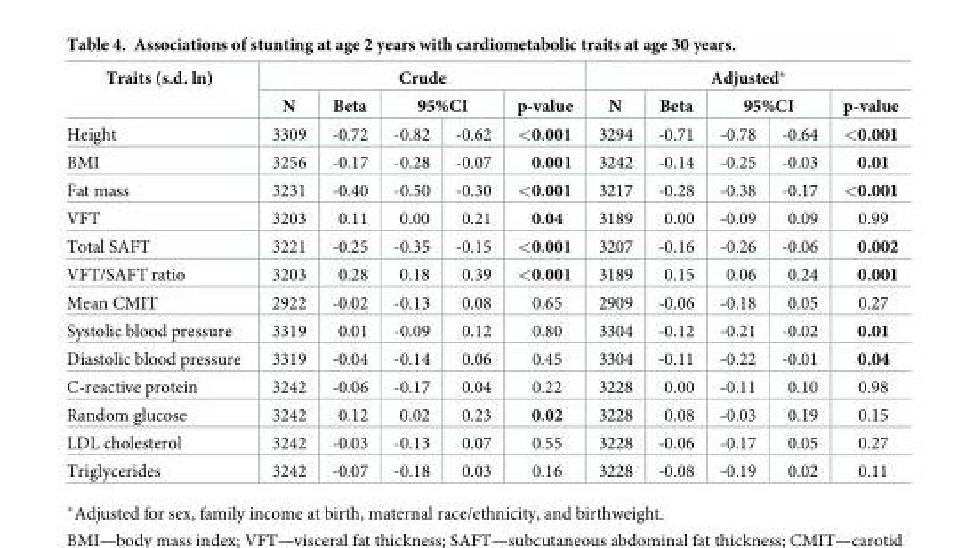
<table><thead><tr><td rowspan="3">Traits (s.d. ln) Height</td><td colspan="5">Crude</td><td colspan="5">Adjusted*</td></tr><tr><td rowspan="2">N 3309</td><td rowspan="2">Beta -0.72</td><td colspan="2">95%CI</td><td rowspan="2">p-value &lt;0.001</td><td rowspan="2">N 3294</td><td rowspan="2">Beta -0.71</td><td colspan="2">95%CI</td><td rowspan="2">p-value &lt;0.001</td></tr><tr><td>-0.82</td><td>-0.62</td><td>-0.78</td><td>-0.64</td></tr></thead><tbody><tr><td>BMI</td><td>3256</td><td>-0.17</td><td>-0.28</td><td>-0.07</td><td>0.001</td><td>3242</td><td>-0.14</td><td>-0.25</td><td>-0.03</td><td>0.01</td></tr><tr><td>Fat mass</td><td>3231</td><td>-0.40</td><td>-0.50</td><td>-0.30</td><td>&lt;0.001</td><td>3217</td><td>-0.28</td><td>-0.38</td><td>-0.17</td><td>&lt;0.001</td></tr><tr><td>VFT</td><td>3203</td><td>0.11</td><td>0.00</td><td>0.21</td><td>0.04</td><td>3189</td><td>0.00</td><td>-0.09</td><td>0.09</td><td>0.99</td></tr><tr><td>Total SAFT</td><td>3221</td><td>-0.25</td><td>-0.35</td><td>-0.15</td><td>&lt;0.001</td><td>3207</td><td>-0.16</td><td>-0.26</td><td>-0.06</td><td>0.002</td></tr><tr><td>VFT/SAFT ratio</td><td>3203</td><td>0.28</td><td>0.18</td><td>0.39</td><td>&lt;0.001</td><td>3189</td><td>0.15</td><td>0.06</td><td>0.24</td><td>0.001</td></tr><tr><td>Mean CMIT</td><td>2922</td><td>-0.02</td><td>-0.13</td><td>0.08</td><td>0.65</td><td>2909</td><td>-0.06</td><td>-0.18</td><td>0.05</td><td>0.27</td></tr><tr><td>Systolic blood pressure</td><td>3319</td><td>0.01</td><td>-0.09</td><td>0.12</td><td>0.80</td><td>3304</td><td>-0.12</td><td>-0.21</td><td>-0.02</td><td>0.01</td></tr><tr><td>Diastolic blood pressure</td><td>3319</td><td>-0.04</td><td>-0.14</td><td>0.06</td><td>0.45</td><td>3304</td><td>-0.11</td><td>-0.22</td><td>-0.01</td><td>0.04</td></tr><tr><td>C-reactive protein</td><td>3242</td><td>-0.06</td><td>-0.17</td><td>0.04</td><td>0.22</td><td>3228</td><td>0.00</td><td>-0.11</td><td>0.10</td><td>0.98</td></tr><tr><td>Random glucose</td><td>3242</td><td>0.12</td><td>0.02</td><td>0.23</td><td>0.02</td><td>3228</td><td>0.08</td><td>-0.03</td><td>0.19</td><td>0.15</td></tr><tr><td>LDL cholesterol</td><td>3242</td><td>-0.03</td><td>-0.13</td><td>0.07</td><td>0.55</td><td>3228</td><td>-0.06</td><td>-0.17</td><td>0.05</td><td>0.27</td></tr><tr><td>Triglycerides</td><td>3242</td><td>-0.07</td><td>-0.18</td><td>0.03</td><td>0.16</td><td>3228</td><td>-0.08</td><td>-0.19</td><td>0.02</td><td>0.11</td></tr></tbody></table>